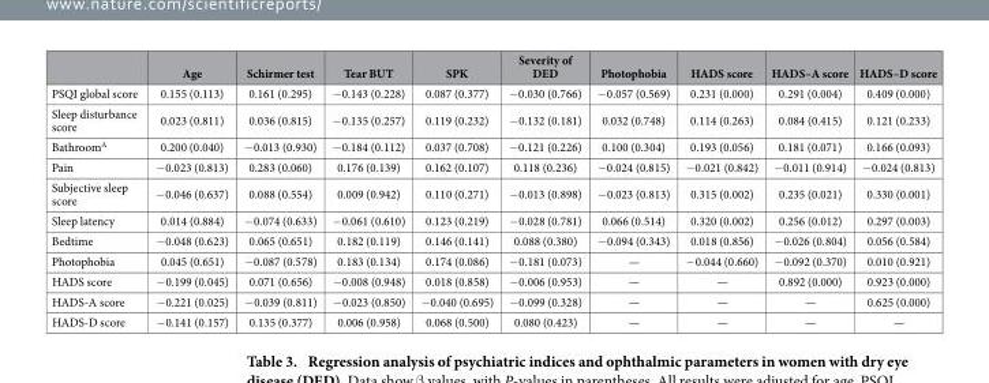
<table><thead><tr><td></td><td>Age</td><td>Schirmer test</td><td>Tear BUT</td><td>SPK</td><td>Severity of DED</td><td>Photophobia</td><td>HADS score</td><td>HADS–A score</td><td>HADS–D score</td></tr></thead><tbody><tr><td>PSQI global score</td><td>0.155 (0.113)</td><td>0.161 (0.295)</td><td>− 0.143 (0.228)</td><td>0.087 (0.377)</td><td>− 0.030 (0.766)</td><td>− 0.057 (0.569)</td><td>0.231 (0.000)</td><td>0.291 (0.004)</td><td>0.409 (0.000)</td></tr><tr><td>Sleep disturbance score</td><td>0.023 (0.811)</td><td>0.036 (0.815)</td><td>− 0.135 (0.257)</td><td>0.119 (0.232)</td><td>− 0.132 (0.181)</td><td>0.032 (0.748)</td><td>0.114 (0.263)</td><td>0.084 (0.415)</td><td>0.121 (0.233)</td></tr><tr><td>Bathroom<sup>A</sup></td><td>0.200 (0.040)</td><td>− 0.013 (0.930)</td><td>− 0.184 (0.112)</td><td>0.037 (0.708)</td><td>− 0.121 (0.226)</td><td>0.100 (0.304)</td><td>0.193 (0.056)</td><td>0.181 (0.071)</td><td>0.166 (0.093)</td></tr><tr><td>Pain</td><td>− 0.023 (0.813)</td><td>0.283 (0.060)</td><td>0.176 (0.139)</td><td>0.162 (0.107)</td><td>0.118 (0.236)</td><td>− 0.024 (0.815)</td><td>− 0.021 (0.842)</td><td>− 0.011 (0.914)</td><td>− 0.024 (0.813)</td></tr><tr><td>Subjective sleep score</td><td>− 0.046 (0.637)</td><td>0.088 (0.554)</td><td>0.009 (0.942)</td><td>0.110 (0.271)</td><td>− 0.013 (0.898)</td><td>− 0.023 (0.813)</td><td>0.315 (0.002)</td><td>0.235 (0.021)</td><td>0.330 (0.001)</td></tr><tr><td>Sleep latency</td><td>0.014 (0.884)</td><td>− 0.074 (0.633)</td><td>− 0.061 (0.610)</td><td>0.123 (0.219)</td><td>− 0.028 (0.781)</td><td>0.066 (0.514)</td><td>0.320 (0.002)</td><td>0.256 (0.012)</td><td>0.297 (0.003)</td></tr><tr><td>Bedtime</td><td>− 0.048 (0.623)</td><td>0.065 (0.651)</td><td>0.182 (0.119)</td><td>0.146 (0.141)</td><td>0.088 (0.380)</td><td>− 0.094 (0.343)</td><td>0.018 (0.856)</td><td>− 0.026 (0.804)</td><td>0.056 (0.584)</td></tr><tr><td>Photophobia</td><td>0.045 (0.651)</td><td>− 0.087 (0.578)</td><td>0.183 (0.134)</td><td>0.174 (0.086)</td><td>− 0.181 (0.073)</td><td>—</td><td>− 0.044 (0.660)</td><td>− 0.092 (0.370)</td><td>0.010 (0.921)</td></tr><tr><td>HADS score</td><td>− 0.199 (0.045)</td><td>0.071 (0.656)</td><td>− 0.008 (0.948)</td><td>0.018 (0.858)</td><td>− 0.006 (0.953)</td><td>—</td><td>—</td><td>0.892 (0.000)</td><td>0.923 (0.000)</td></tr><tr><td>HADS-A score</td><td>− 0.221 (0.025)</td><td>− 0.039 (0.811)</td><td>− 0.023 (0.850)</td><td>− 0.040 (0.695)</td><td>− 0.099 (0.328)</td><td>—</td><td>—</td><td>—</td><td>0.625 (0.000)</td></tr><tr><td>HADS-D score</td><td>− 0.141 (0.157)</td><td>0.135 (0.377)</td><td>0.006 (0.958)</td><td>0.068 (0.500)</td><td>0.080 (0.423)</td><td>—</td><td>—</td><td>—</td><td>—</td></tr></tbody></table>